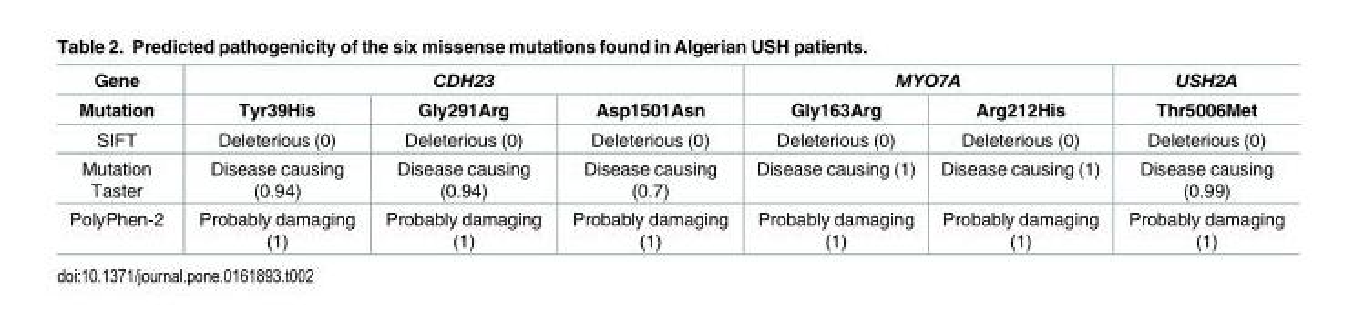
<table><thead><tr><td rowspan="2">Gene Mutation</td><td colspan="3">CDH23</td><td colspan="2">MYO7A</td><td rowspan="2">USH2A Thr5006Met</td></tr><tr><td>Tyr39His</td><td>Gly291Arg</td><td>Asp1501Asn</td><td>Gly163Arg</td><td>Arg212His</td></tr></thead><tbody><tr><td>SIFT</td><td>Deleterious (0)</td><td>Deleterious (0)</td><td>Deleterious (0)</td><td>Deleterious (0)</td><td>Deleterious (0)</td><td>Deleterious (0)</td></tr><tr><td>Mutation Taster</td><td>Disease causing (0.94)</td><td>Disease causing (0.94)</td><td>Disease causing (0.7)</td><td>Disease causing (1)</td><td>Disease causing (1)</td><td>Disease causing (0.99)</td></tr><tr><td>PolyPhen-2</td><td>Probably damaging (1)</td><td>Probably damaging (1)</td><td>Probably damaging (1)</td><td>Probably damaging (1)</td><td>Probably damaging (1)</td><td>Probably damaging (1)</td></tr></tbody></table>